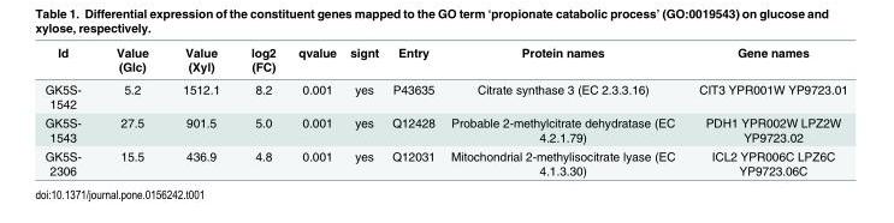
<table><thead><tr><td>Id</td><td>Value (Glc)</td><td>Value (Xyl)</td><td>log2 (FC)</td><td>qvalue</td><td>signt</td><td>Entry</td><td>Protein names</td><td>Gene names</td></tr></thead><tbody><tr><td>GK5S- 1542</td><td>5.2</td><td>1512.1</td><td>8.2</td><td>0.001</td><td>yes</td><td>P43635</td><td>Citrate synthase 3 (EC 2.3.3.16)</td><td>CIT3 YPR001W YP9723.01</td></tr><tr><td>GK5S- 1543</td><td>27.5</td><td>901.5</td><td>5.0</td><td>0.001</td><td>yes</td><td>Q12428</td><td>Probable 2-methylcitrate dehydratase (EC 4.2.1.79)</td><td>PDH1 YPR002W LPZ2W YP9723.02</td></tr><tr><td>GK5S- 2306</td><td>15.5</td><td>436.9</td><td>4.8</td><td>0.001</td><td>yes</td><td>Q12031</td><td>Mitochondrial 2-methylisocitrate lyase (EC 4.1.3.30)</td><td>ICL2 YPR006C LPZ6C YP9723.06C</td></tr></tbody></table>